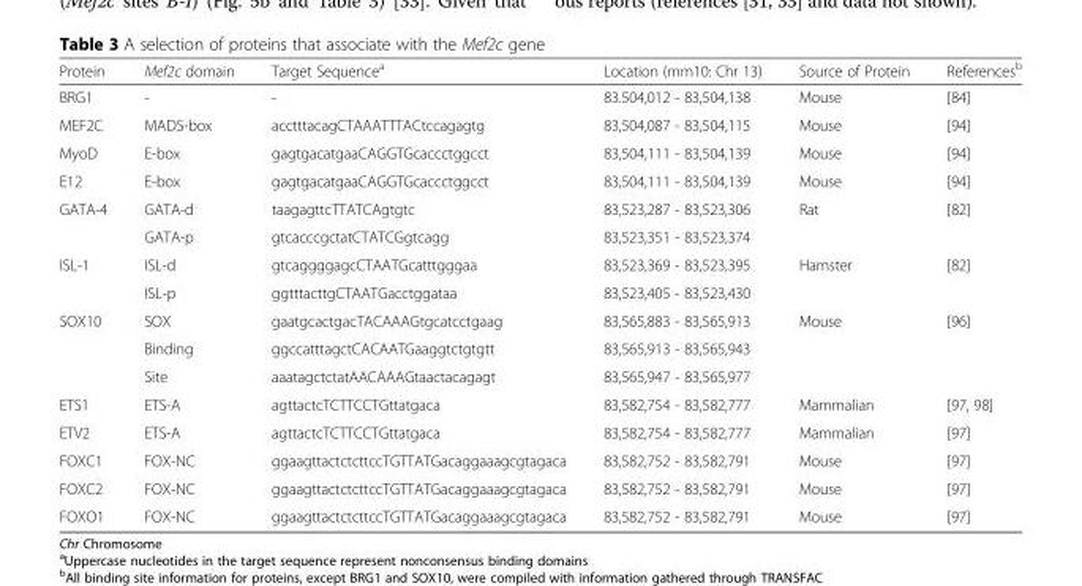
<table><thead><tr><td>Protein</td><td>Mef2c domain</td><td>Target Sequence<sup>a</sup></td><td>Location (mm10: Chr 13)</td><td>Source of Protein</td><td>References<sup>b</sup></td></tr></thead><tbody><tr><td>BRG1</td><td>-</td><td>-</td><td>83.504,012 - 83,504,138</td><td>Mouse</td><td>[84]</td></tr><tr><td>MEF2C</td><td>MADS-box</td><td>acctttacagCTAAATTTACtccagagtg</td><td>83,504,087 - 83,504,115</td><td>Mouse</td><td>[94]</td></tr><tr><td>MyoD</td><td>E-box</td><td>gagtgacatgaaCAGGTGcaccctggcct</td><td>83,504,111 - 83,504,139</td><td>Mouse</td><td>[94]</td></tr><tr><td>E12</td><td>E-box</td><td>gagtgacatgaaCAGGTGcaccctggcct</td><td>83,504,111 - 83,504,139</td><td>Mouse</td><td>[94]</td></tr><tr><td rowspan="2">GATA-4</td><td>GATA-d</td><td>taagagttcTTATCAgtgtc</td><td>83,523,287 - 83,523,306</td><td rowspan="2">Rat</td><td rowspan="2">[82]</td></tr><tr><td>GATA-p</td><td>gtcacccgctatCTATCGgtcagg</td><td>83,523,351 - 83,523,374</td></tr><tr><td rowspan="2">ISL-1</td><td>ISL-d</td><td>gtcaggggagcCTAATGcatttgggaa</td><td>83,523,369 - 83,523,395</td><td rowspan="2">Hamster</td><td rowspan="2">[82]</td></tr><tr><td>ISL-p</td><td>ggtttacttgCTAATGacctggataa</td><td>83,523,405 - 83,523,430</td></tr><tr><td rowspan="3">SOX10</td><td>SOX</td><td>gaatgcactgacTACAAAGtgcatcctgaag</td><td>83,565,883 - 83,565,913</td><td rowspan="3">Mouse</td><td rowspan="3">[96]</td></tr><tr><td>Binding</td><td>ggccatttagctCACAATGaaggtctgtgtt</td><td>83,565,913 - 83,565,943</td></tr><tr><td>Site</td><td>aaatagctctatAACAAAGtaactacagagt</td><td>83,565,947 - 83,565,977</td></tr><tr><td>ETS1</td><td>ETS-A</td><td>agttactcTCTTCCTGttatgaca</td><td>83,582,754 - 83,582,777</td><td>Mammalian</td><td>[97, 98]</td></tr><tr><td>ETV2</td><td>ETS-A</td><td>agttactcTCTTCCTGttatgaca</td><td>83,582,754 - 83,582,777</td><td>Mammalian</td><td>[97]</td></tr><tr><td>FOXC1</td><td>FOX-NC</td><td>ggaagttactctcttccTGTTATGacaggaaagcgtagaca</td><td>83,582,752 - 83,582,791</td><td>Mouse</td><td>[97]</td></tr><tr><td>FOXC2</td><td>FOX-NC</td><td>ggaagttactctcttccTGTTATGacaggaaagcgtagaca</td><td>83,582,752 - 83,582,791</td><td>Mouse</td><td>[97]</td></tr><tr><td>FOXO1</td><td>FOX-NC</td><td>ggaagttactctcttccTGTTATGacaggaaagcgtagaca</td><td>83,582,752 - 83,582,791</td><td>Mouse</td><td>[97]</td></tr></tbody></table>